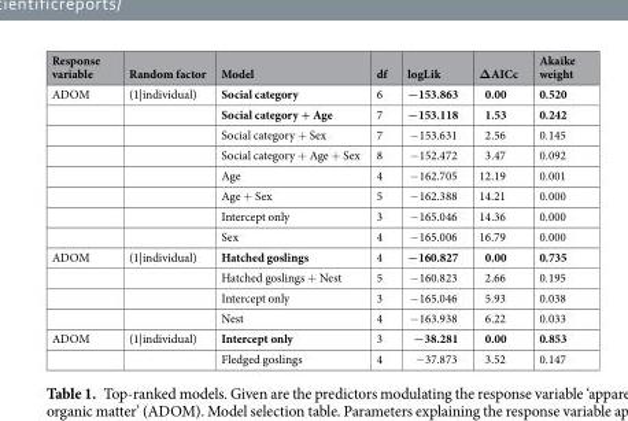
<table><thead><tr><td>Response variable</td><td>Random factor</td><td>Model</td><td>df</td><td>logLik</td><td>ΔAICc</td><td>Akaike weight</td></tr></thead><tbody><tr><td rowspan="8">ADOM</td><td>(1|individual)</td><td>Social category</td><td>6</td><td>−153.863</td><td>0.00</td><td>0.520</td></tr><tr><td></td><td>Social category + Age</td><td>7</td><td>−153.118</td><td>1.53</td><td>0.242</td></tr><tr><td></td><td>Social category + Sex</td><td>7</td><td>−153.631</td><td>2.56</td><td>0.145</td></tr><tr><td></td><td>Social category + Age + Sex</td><td>8</td><td>−152.472</td><td>3.47</td><td>0.092</td></tr><tr><td></td><td>Age</td><td>4</td><td>−162.705</td><td>12.19</td><td>0.001</td></tr><tr><td></td><td>Age + Sex</td><td>5</td><td>−162.388</td><td>14.21</td><td>0.000</td></tr><tr><td></td><td>Intercept only</td><td>3</td><td>−165.046</td><td>14.36</td><td>0.000</td></tr><tr><td></td><td>Sex</td><td>4</td><td>−165.006</td><td>16.79</td><td>0.000</td></tr><tr><td rowspan="4">ADOM</td><td>(1|individual)</td><td>Hatched goslings</td><td>4</td><td>−160.827</td><td>0.00</td><td>0.735</td></tr><tr><td></td><td>Hatched goslings + Nest</td><td>5</td><td>−160.823</td><td>2.66</td><td>0.195</td></tr><tr><td></td><td>Intercept only</td><td>3</td><td>−165.046</td><td>5.93</td><td>0.038</td></tr><tr><td></td><td>Nest</td><td>4</td><td>−163.938</td><td>6.22</td><td>0.033</td></tr><tr><td rowspan="2">ADOM</td><td>(1|individual)</td><td>Intercept only</td><td>3</td><td>−38.281</td><td>0.00</td><td>0.853</td></tr><tr><td></td><td>Fledged goslings</td><td>4</td><td>−37.873</td><td>3.52</td><td>0.147</td></tr></tbody></table>